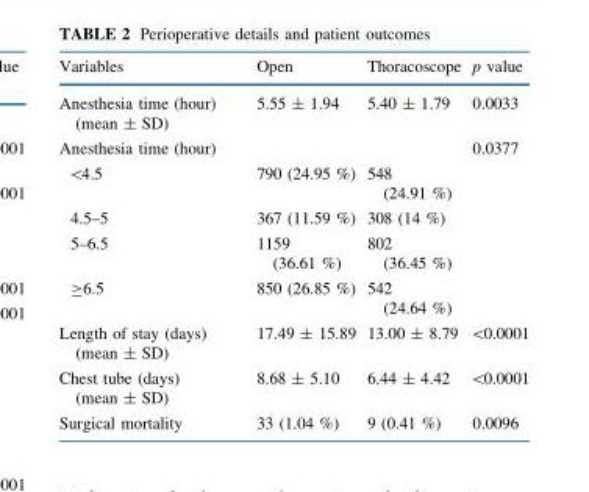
<table><thead><tr><td>Variables</td><td>Open</td><td>Thoracoscope</td><td>p value</td></tr></thead><tbody><tr><td>Anesthesia time (hour) (mean ± SD)</td><td>5.55 ± 1.94</td><td>5.40 ± 1.79</td><td>0.0033</td></tr><tr><td>Anesthesia time (hour)</td><td></td><td></td><td>0.0377</td></tr><tr><td>&lt;4.5</td><td>790 (24.95 %)</td><td>548 (24.91 %)</td><td></td></tr><tr><td>4.5–5</td><td>367 (11.59 %)</td><td>308 (14 %)</td><td></td></tr><tr><td>5–6.5</td><td>1159 (36.61 %)</td><td>802 (36.45 %)</td><td></td></tr><tr><td>≥6.5</td><td>850 (26.85 %)</td><td>542 (24.64 %)</td><td></td></tr><tr><td>Length of stay (days) (mean ± SD)</td><td>17.49 ± 15.89</td><td>13.00 ± 8.79</td><td>&lt;0.0001</td></tr><tr><td>Chest tube (days) (mean ± SD)</td><td>8.68 ± 5.10</td><td>6.44 ± 4.42</td><td>&lt;0.0001</td></tr><tr><td>Surgical mortality</td><td>33 (1.04 %)</td><td>9 (0.41 %)</td><td>0.0096</td></tr></tbody></table>